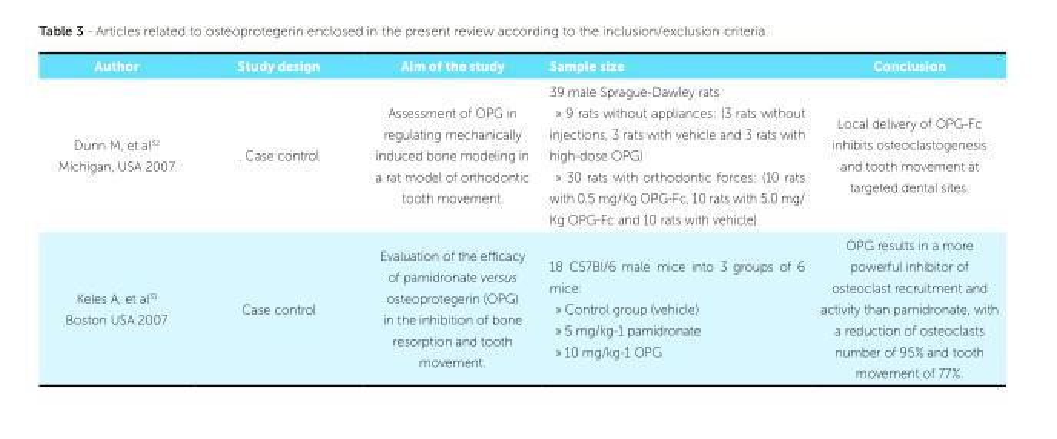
<table><thead><tr><td>Author</td><td>Study design</td><td>Aim of the study</td><td>Sample size</td><td>Conclusion</td></tr></thead><tbody><tr><td>Dunn M, et al<sup>32</sup> Michigan, USA 2007</td><td>. Case control</td><td>Assessment of OPG in regulating mechanically induced bone modeling in a rat model of orthodontic tooth movement.</td><td>39 male Sprague-Dawley rats » 9 rats without appliances: (3 rats without injections, 3 rats with vehicle and 3 rats with high-dose OPG) » 30 rats with orthodontic forces: (10 rats with 0.5 mg/Kg OPG-Fc, 10 rats with 5.0 mg/ Kg OPG-Fc and 10 rats with vehicle)</td><td>Local delivery of OPG-Fc inhibits osteoclastogenesis and tooth movement at targeted dental sites.</td></tr><tr><td>Keles A, et al<sup>31</sup> Boston USA 2007</td><td>Case control</td><td>Evaluation of the efficacy of pamidronate versus osteoprotegerin (OPG) in the inhibition of bone resorption and tooth movement.</td><td>18 C57Bl/6 male mice into 3 groups of 6 mice: » Control group (vehicle) » 5 mg/kg-1 pamidronate » 10 mg/kg-1 OPG</td><td>OPG results in a more powerful inhibitor of osteoclast recruitment and activity than pamidronate, with a reduction of osteoclasts number of 95% and tooth movement of 77%.</td></tr></tbody></table>